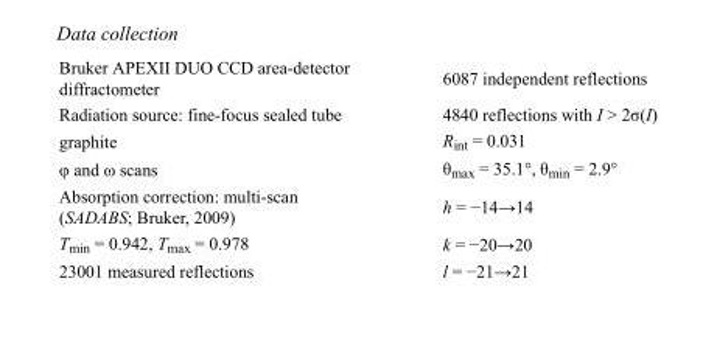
<table><tbody><tr><td>Bruker APEXII DUO CCD area-detector diffractometer</td><td>6087 independent reflections</td></tr><tr><td>Radiation source: fine-focus sealed tube</td><td>4840 reflections with I &gt; 2σ(I)</td></tr><tr><td>graphite</td><td>R<sub>int</sub> = 0.031</td></tr><tr><td>φ and ω scans</td><td>θ<sub>max</sub> = 35.1°, θ<sub>min</sub> = 2.9°</td></tr><tr><td>Absorption correction: multi-scan (SADABS; Bruker, 2009)</td><td>h = −14→14</td></tr><tr><td>T<sub>min</sub> = 0.942, T<sub>max</sub> = 0.978</td><td>k = −20→20</td></tr><tr><td>23001 measured reflections</td><td>l = −21→21</td></tr></tbody></table>